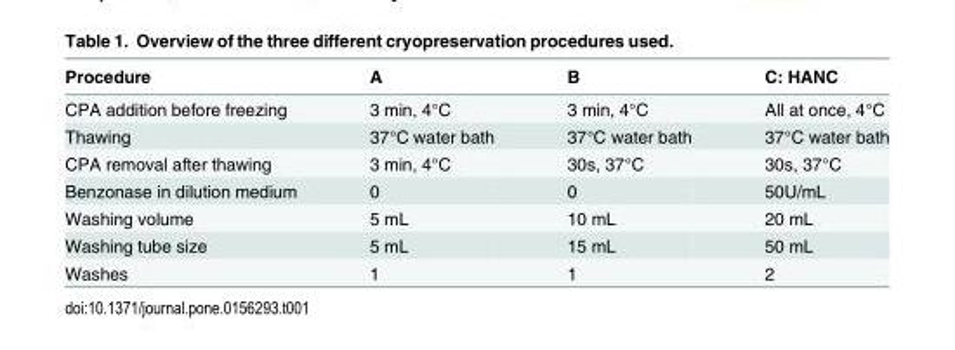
<table><thead><tr><td>Procedure</td><td>A</td><td>B</td><td>C: HANC</td></tr></thead><tbody><tr><td>CPA addition before freezing</td><td>3 min, 4°C</td><td>3 min, 4°C</td><td>All at once, 4°C</td></tr><tr><td>Thawing</td><td>37°C water bath</td><td>37°C water bath</td><td>37°C water bath</td></tr><tr><td>CPA removal after thawing</td><td>3 min, 4°C</td><td>30s, 37°C</td><td>30s, 37°C</td></tr><tr><td>Benzonase in dilution medium</td><td>0</td><td>0</td><td>50U/mL</td></tr><tr><td>Washing volume</td><td>5 mL</td><td>10 mL</td><td>20 mL</td></tr><tr><td>Washing tube size</td><td>5 mL</td><td>15 mL</td><td>50 mL</td></tr><tr><td>Washes</td><td>1</td><td>1</td><td>2</td></tr></tbody></table>